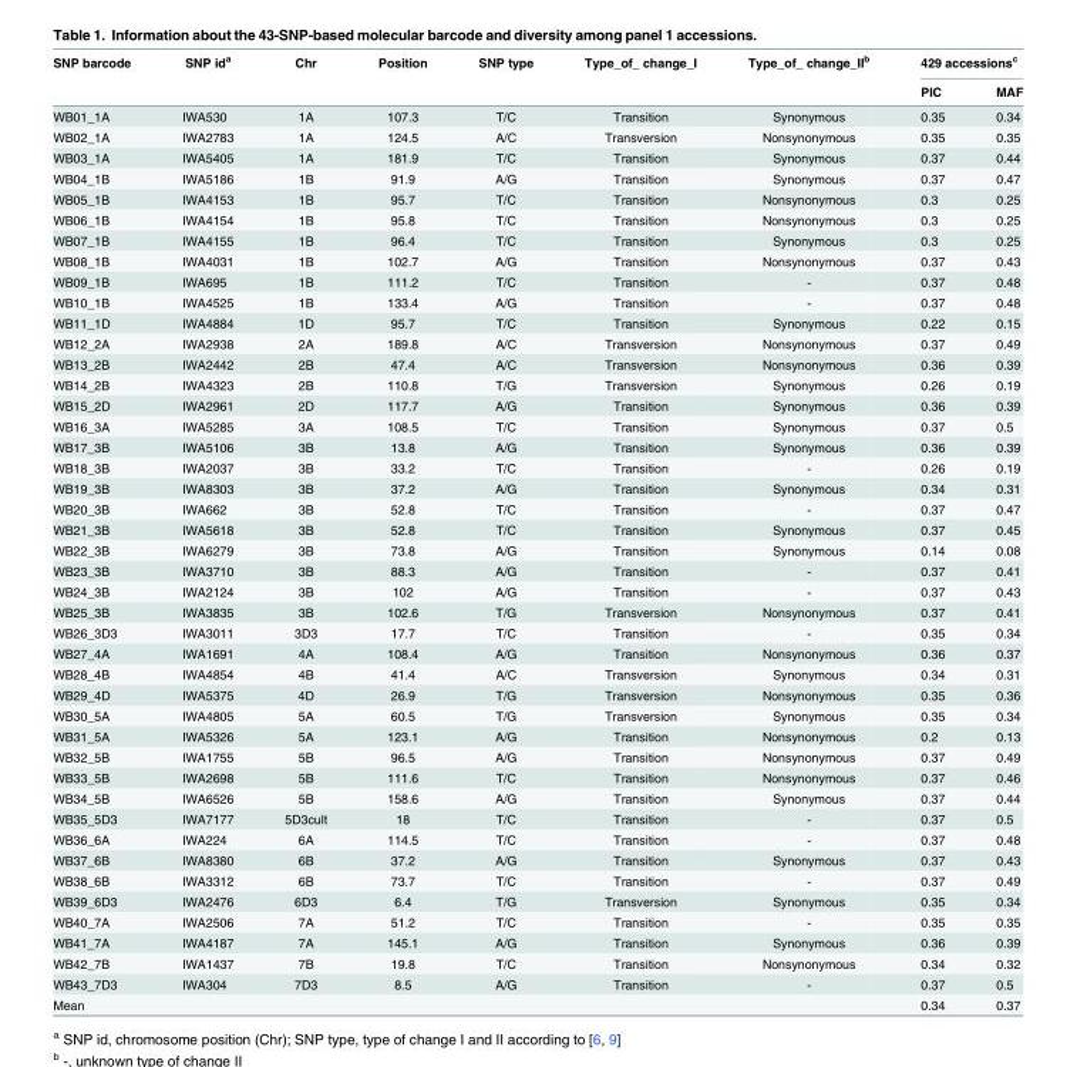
<table><thead><tr><td rowspan="2">SNP barcode</td><td rowspan="2">SNP id<sup>a</sup></td><td rowspan="2">Chr</td><td rowspan="2">Position</td><td rowspan="2">SNP type</td><td rowspan="2">Type_of_ change_I</td><td rowspan="2">Type_of_ change_II<sup>b</sup></td><td colspan="2">429 accessions<sup>c</sup></td></tr><tr><td>PIC</td><td>MAF</td></tr></thead><tbody><tr><td>WB01_1A</td><td>IWA530</td><td>1A</td><td>107.3</td><td>T/C</td><td>Transition</td><td>Synonymous</td><td>0.35</td><td>0.34</td></tr><tr><td>WB02_1A</td><td>IWA2783</td><td>1A</td><td>124.5</td><td>A/C</td><td>Transversion</td><td>Nonsynonymous</td><td>0.35</td><td>0.35</td></tr><tr><td>WB03_1A</td><td>IWA5405</td><td>1A</td><td>181.9</td><td>T/C</td><td>Transition</td><td>Synonymous</td><td>0.37</td><td>0.44</td></tr><tr><td>WB04_1B</td><td>IWA5186</td><td>1B</td><td>91.9</td><td>A/G</td><td>Transition</td><td>Synonymous</td><td>0.37</td><td>0.47</td></tr><tr><td>WB05_1B</td><td>IWA4153</td><td>1B</td><td>95.7</td><td>T/C</td><td>Transition</td><td>Nonsynonymous</td><td>0.3</td><td>0.25</td></tr><tr><td>WB06_1B</td><td>IWA4154</td><td>1B</td><td>95.8</td><td>T/C</td><td>Transition</td><td>Nonsynonymous</td><td>0.3</td><td>0.25</td></tr><tr><td>WB07_1B</td><td>IWA4155</td><td>1B</td><td>96.4</td><td>T/C</td><td>Transition</td><td>Synonymous</td><td>0.3</td><td>0.25</td></tr><tr><td>WB08_1B</td><td>IWA4031</td><td>1B</td><td>102.7</td><td>A/G</td><td>Transition</td><td>Nonsynonymous</td><td>0.37</td><td>0.43</td></tr><tr><td>WB09_1B</td><td>IWA695</td><td>1B</td><td>111.2</td><td>T/C</td><td>Transition</td><td>-</td><td>0.37</td><td>0.48</td></tr><tr><td>WB10_1B</td><td>IWA4525</td><td>1B</td><td>133.4</td><td>A/G</td><td>Transition</td><td>-</td><td>0.37</td><td>0.48</td></tr><tr><td>WB11_1D</td><td>IWA4884</td><td>1D</td><td>95.7</td><td>T/C</td><td>Transition</td><td>Synonymous</td><td>0.22</td><td>0.15</td></tr><tr><td>WB12_2A</td><td>IWA2938</td><td>2A</td><td>189.8</td><td>A/C</td><td>Transversion</td><td>Nonsynonymous</td><td>0.37</td><td>0.49</td></tr><tr><td>WB13_2B</td><td>IWA2442</td><td>2B</td><td>47.4</td><td>A/C</td><td>Transversion</td><td>Nonsynonymous</td><td>0.36</td><td>0.39</td></tr><tr><td>WB14_2B</td><td>IWA4323</td><td>2B</td><td>110.8</td><td>T/G</td><td>Transversion</td><td>Synonymous</td><td>0.26</td><td>0.19</td></tr><tr><td>WB15_2D</td><td>IWA2961</td><td>2D</td><td>117.7</td><td>A/G</td><td>Transition</td><td>Synonymous</td><td>0.36</td><td>0.39</td></tr><tr><td>WB16_3A</td><td>IWA5285</td><td>3A</td><td>108.5</td><td>T/C</td><td>Transition</td><td>Synonymous</td><td>0.37</td><td>0.5</td></tr><tr><td>WB17_3B</td><td>IWA5106</td><td>3B</td><td>13.8</td><td>A/G</td><td>Transition</td><td>Synonymous</td><td>0.36</td><td>0.39</td></tr><tr><td>WB18_3B</td><td>IWA2037</td><td>3B</td><td>33.2</td><td>T/C</td><td>Transition</td><td>-</td><td>0.26</td><td>0.19</td></tr><tr><td>WB19_3B</td><td>IWA8303</td><td>3B</td><td>37.2</td><td>A/G</td><td>Transition</td><td>Synonymous</td><td>0.34</td><td>0.31</td></tr><tr><td>WB20_3B</td><td>IWA662</td><td>3B</td><td>52.8</td><td>T/C</td><td>Transition</td><td>-</td><td>0.37</td><td>0.47</td></tr><tr><td>WB21_3B</td><td>IWA5618</td><td>3B</td><td>52.8</td><td>T/C</td><td>Transition</td><td>Synonymous</td><td>0.37</td><td>0.45</td></tr><tr><td>WB22_3B</td><td>IWA6279</td><td>3B</td><td>73.8</td><td>A/G</td><td>Transition</td><td>Synonymous</td><td>0.14</td><td>0.08</td></tr><tr><td>WB23_3B</td><td>IWA3710</td><td>3B</td><td>88.3</td><td>A/G</td><td>Transition</td><td>-</td><td>0.37</td><td>0.41</td></tr><tr><td>WB24_3B</td><td>IWA2124</td><td>3B</td><td>102</td><td>A/G</td><td>Transition</td><td>-</td><td>0.37</td><td>0.43</td></tr><tr><td>WB25_3B</td><td>IWA3835</td><td>3B</td><td>102.6</td><td>T/G</td><td>Transversion</td><td>Nonsynonymous</td><td>0.37</td><td>0.41</td></tr><tr><td>WB26_3D3</td><td>IWA3011</td><td>3D3</td><td>17.7</td><td>T/C</td><td>Transition</td><td>-</td><td>0.35</td><td>0.34</td></tr><tr><td>WB27_4A</td><td>IWA1691</td><td>4A</td><td>108.4</td><td>A/G</td><td>Transition</td><td>Nonsynonymous</td><td>0.36</td><td>0.37</td></tr><tr><td>WB28_4B</td><td>IWA4854</td><td>4B</td><td>41.4</td><td>A/C</td><td>Transversion</td><td>Synonymous</td><td>0.34</td><td>0.31</td></tr><tr><td>WB29_4D</td><td>IWA5375</td><td>4D</td><td>26.9</td><td>T/G</td><td>Transversion</td><td>Nonsynonymous</td><td>0.35</td><td>0.36</td></tr><tr><td>WB30_5A</td><td>IWA4805</td><td>5A</td><td>60.5</td><td>T/G</td><td>Transversion</td><td>Synonymous</td><td>0.35</td><td>0.34</td></tr><tr><td>WB31_5A</td><td>IWA5326</td><td>5A</td><td>123.1</td><td>A/G</td><td>Transition</td><td>Nonsynonymous</td><td>0.2</td><td>0.13</td></tr><tr><td>WB32_5B</td><td>IWA1755</td><td>5B</td><td>96.5</td><td>A/G</td><td>Transition</td><td>Nonsynonymous</td><td>0.37</td><td>0.49</td></tr><tr><td>WB33_5B</td><td>IWA2698</td><td>5B</td><td>111.6</td><td>T/C</td><td>Transition</td><td>Nonsynonymous</td><td>0.37</td><td>0.46</td></tr><tr><td>WB34_5B</td><td>IWA6526</td><td>5B</td><td>158.6</td><td>A/G</td><td>Transition</td><td>Synonymous</td><td>0.37</td><td>0.44</td></tr><tr><td>WB35_5D3</td><td>IWA7177</td><td>5D3cult</td><td>18</td><td>T/C</td><td>Transition</td><td>-</td><td>0.37</td><td>0.5</td></tr><tr><td>WB36_6A</td><td>IWA224</td><td>6A</td><td>114.5</td><td>T/C</td><td>Transition</td><td>-</td><td>0.37</td><td>0.48</td></tr><tr><td>WB37_6B</td><td>IWA8380</td><td>6B</td><td>37.2</td><td>A/G</td><td>Transition</td><td>Synonymous</td><td>0.37</td><td>0.43</td></tr><tr><td>WB38_6B</td><td>IWA3312</td><td>6B</td><td>73.7</td><td>T/C</td><td>Transition</td><td>-</td><td>0.37</td><td>0.49</td></tr><tr><td>WB39_6D3</td><td>IWA2476</td><td>6D3</td><td>6.4</td><td>T/G</td><td>Transversion</td><td>Synonymous</td><td>0.35</td><td>0.34</td></tr><tr><td>WB40_7A</td><td>IWA2506</td><td>7A</td><td>51.2</td><td>T/C</td><td>Transition</td><td>-</td><td>0.35</td><td>0.35</td></tr><tr><td>WB41_7A</td><td>IWA4187</td><td>7A</td><td>145.1</td><td>A/G</td><td>Transition</td><td>Synonymous</td><td>0.36</td><td>0.39</td></tr><tr><td>WB42_7B</td><td>IWA1437</td><td>7B</td><td>19.8</td><td>T/C</td><td>Transition</td><td>Nonsynonymous</td><td>0.34</td><td>0.32</td></tr><tr><td>WB43_7D3</td><td>IWA304</td><td>7D3</td><td>8.5</td><td>A/G</td><td>Transition</td><td>-</td><td>0.37</td><td>0.5</td></tr><tr><td>Mean</td><td></td><td></td><td></td><td></td><td></td><td></td><td>0.34</td><td>0.37</td></tr></tbody></table>